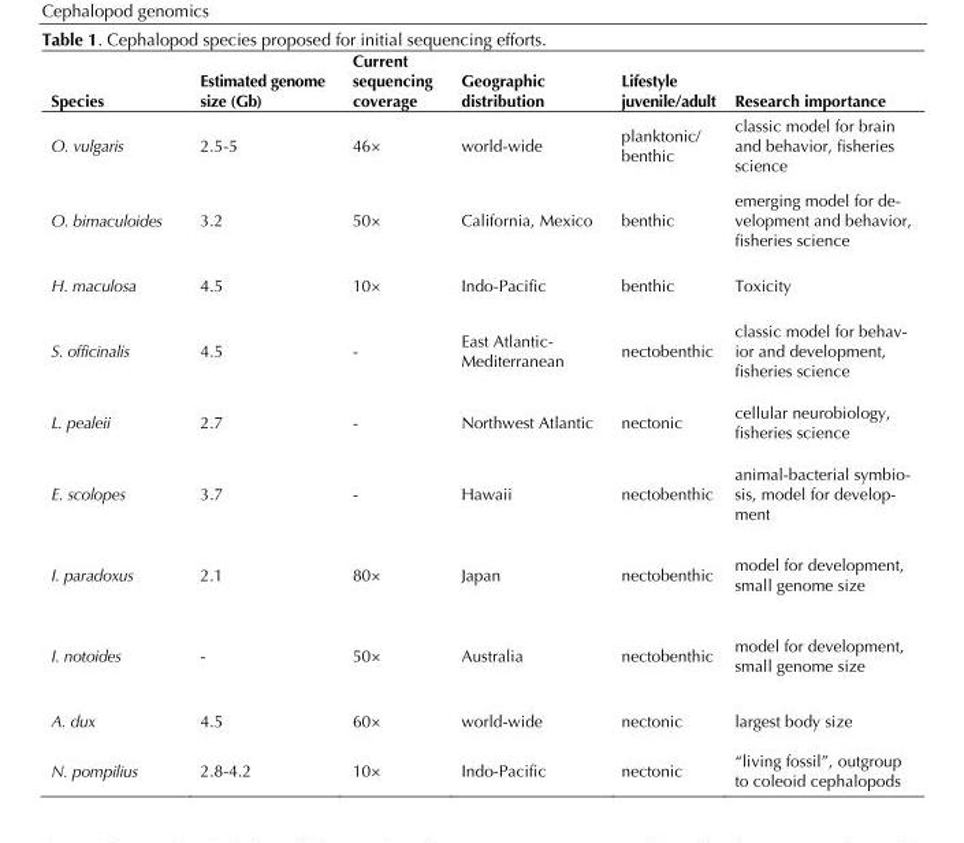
<table><thead><tr><td>Species</td><td>Estimated genome size (Gb)</td><td>Current sequencing coverage</td><td>Geographic distribution</td><td>Lifestyle juvenile/adult</td><td>Research importance</td></tr></thead><tbody><tr><td>O. vulgaris</td><td>2.5-5</td><td>46×</td><td>world-wide</td><td>planktonic/ benthic</td><td>classic model for brain and behavior, fisheries science</td></tr><tr><td>O. bimaculoides</td><td>3.2</td><td>50×</td><td>California, Mexico</td><td>benthic</td><td>emerging model for de- velopment and behavior, fisheries science</td></tr><tr><td>H. maculosa</td><td>4.5</td><td>10×</td><td>Indo-Pacific</td><td>benthic</td><td>Toxicity</td></tr><tr><td>S. officinalis</td><td>4.5</td><td>-</td><td>East Atlantic- Mediterranean</td><td>nectobenthic</td><td>classic model for behav- ior and development, fisheries science</td></tr><tr><td>L. pealeii</td><td>2.7</td><td>-</td><td>Northwest Atlantic</td><td>nectonic</td><td>cellular neurobiology, fisheries science</td></tr><tr><td>E. scolopes</td><td>3.7</td><td>-</td><td>Hawaii</td><td>nectobenthic</td><td>animal-bacterial symbio- sis, model for develop- ment</td></tr><tr><td>I. paradoxus</td><td>2.1</td><td>80×</td><td>Japan</td><td>nectobenthic</td><td>model for development, small genome size</td></tr><tr><td>I. notoides</td><td>-</td><td>50×</td><td>Australia</td><td>nectobenthic</td><td>model for development, small genome size</td></tr><tr><td>A. dux</td><td>4.5</td><td>60×</td><td>world-wide</td><td>nectonic</td><td>largest body size</td></tr><tr><td>N. pompilius</td><td>2.8-4.2</td><td>10×</td><td>Indo-Pacific</td><td>nectonic</td><td>“living fossil”, outgroup to coleoid cephalopods</td></tr></tbody></table>